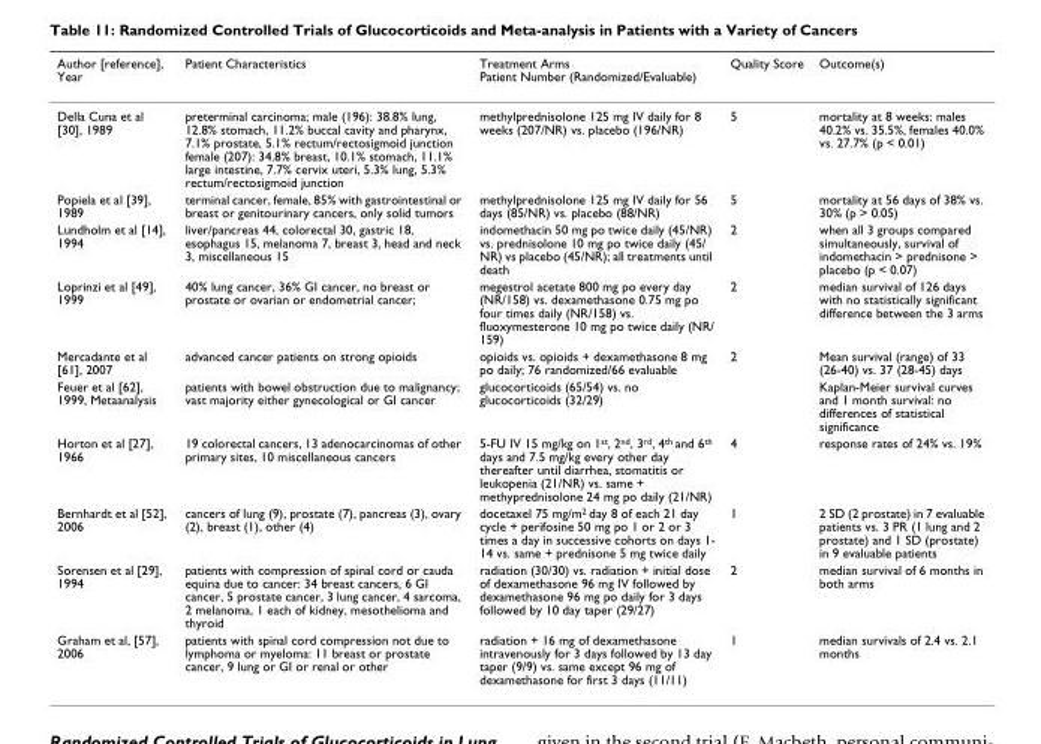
<table><thead><tr><td>Author [reference], Year</td><td>Patient Characteristics</td><td>Treatment Arms Patient Number (Randomized/Evaluable)</td><td>Quality Score</td><td>Outcome(s)</td></tr></thead><tbody><tr><td>Della Cuna et al [30], 1989</td><td>preterminal carcinoma; male (196): 38.8% lung, 12.8% stomach, 11.2% buccal cavity and pharynx, 7.1% prostate, 5.1% rectum/rectosigmoid junction female (207): 34.8% breast, 10.1% stomach, 11.1% large intestine, 7.7% cervix uteri, 5.3% lung, 5.3% rectum/rectosigmoid junction</td><td>methylprednisolone 125 mg IV daily for 8 weeks (207/NR) vs. placebo (196/NR)</td><td>5</td><td>mortality at 8 weeks: males 40.2% vs. 35.5%, females 40.0% vs. 27.7% (p &lt; 0.01)</td></tr><tr><td>Popiela et al [39], 1989</td><td>terminal cancer, female, 85% with gastrointestinal or breast or genitourinary cancers, only solid tumors</td><td>methylprednisolone 125 mg IV daily for 56 days (85/NR) vs. placebo (88/NR)</td><td>5</td><td>mortality at 56 days of 38% vs. 30% (p &gt; 0.05)</td></tr><tr><td>Lundholm et al [14], 1994</td><td>liver/pancreas 44, colorectal 30, gastric 18, esophagus 15, melanoma 7, breast 3, head and neck 3, miscellaneous 15</td><td>indomethacin 50 mg po twice daily (45/NR) vs. prednisolone 10 mg po twice daily (45/ NR) vs placebo (45/NR); all treatments until death</td><td>2</td><td>when all 3 groups compared simultaneously, survival of indomethacin &gt; prednisone &gt; placebo (p &lt; 0.07)</td></tr><tr><td>Loprinzi et al [49], 1999</td><td>40% lung cancer, 36% GI cancer, no breast or prostate or ovarian or endometrial cancer;</td><td>megestrol acetate 800 mg po every day (NR/158) vs. dexamethasone 0.75 mg po four times daily (NR/158) vs. fluoxymesterone 10 mg po twice daily (NR/ 159)</td><td>2</td><td>median survival of 126 days with no statistically significant difference between the 3 arms</td></tr><tr><td>Mercadante et al [61], 2007</td><td>advanced cancer patients on strong opioids</td><td>opioids vs. opioids + dexamethasone 8 mg po daily; 76 randomized/66 evaluable</td><td>2</td><td>Mean survival (range) of 33 (26-40) vs. 37 (28-45) days</td></tr><tr><td>Feuer et al [62], 1999, Metaanalysis</td><td>patients with bowel obstruction due to malignancy; vast majority either gynecological or GI cancer</td><td>glucocorticoids (65/54) vs. no glucocorticoids (32/29)</td><td></td><td>Kaplan-Meier survival curves and 1 month survival: no differences of statistical significance</td></tr><tr><td>Horton et al [27], 1966</td><td>19 colorectal cancers, 13 adenocarcinomas of other primary sites, 10 miscellaneous cancers</td><td>5-FU IV 15 mg/kg on 1<sup>st</sup>, 2<sup>nd</sup>, 3<sup>rd</sup>, 4<sup>th</sup> and 6<sup>th</sup> days and 7.5 mg/kg every other day thereafter until diarrhea, stomatitis or leukopenia (21/NR) vs. same + methyprednisolone 24 mg po daily (21/NR)</td><td>4</td><td>response rates of 24% vs. 19%</td></tr><tr><td>Bernhardt et al [52], 2006</td><td>cancers of lung (9), prostate (7), pancreas (3), ovary (2), breast (1), other (4)</td><td>docetaxel 75 mg/m<sup>2</sup> day 8 of each 21 day cycle + perifosine 50 mg po 1 or 2 or 3 times a day in successive cohorts on days 1- 14 vs. same + prednisone 5 mg twice daily</td><td>1</td><td>2 SD (2 prostate) in 7 evaluable patients vs. 3 PR (1 lung and 2 prostate) and 1 SD (prostate) in 9 evaluable patients</td></tr><tr><td>Sorensen et al [29], 1994</td><td>patients with compression of spinal cord or cauda equina due to cancer: 34 breast cancers, 6 GI cancer, 5 prostate cancer, 3 lung cancer, 4 sarcoma, 2 melanoma, 1 each of kidney, mesothelioma and thyroid</td><td>radiation (30/30) vs. radiation + initial dose of dexamethasone 96 mg IV followed by dexamethasone 96 mg po daily for 3 days followed by 10 day taper (29/27)</td><td>2</td><td>median survival of 6 months in both arms</td></tr><tr><td>Graham et al, [57], 2006</td><td>patients with spinal cord compression not due to lymphoma or myeloma: 11 breast or prostate cancer, 9 lung or GI or renal or other</td><td>radiation + 16 mg of dexamethasone intravenously for 3 days followed by 13 day taper (9/9) vs. same except 96 mg of dexamethasone for first 3 days (11/11)</td><td>1</td><td>median survivals of 2.4 vs. 2.1 months</td></tr></tbody></table>